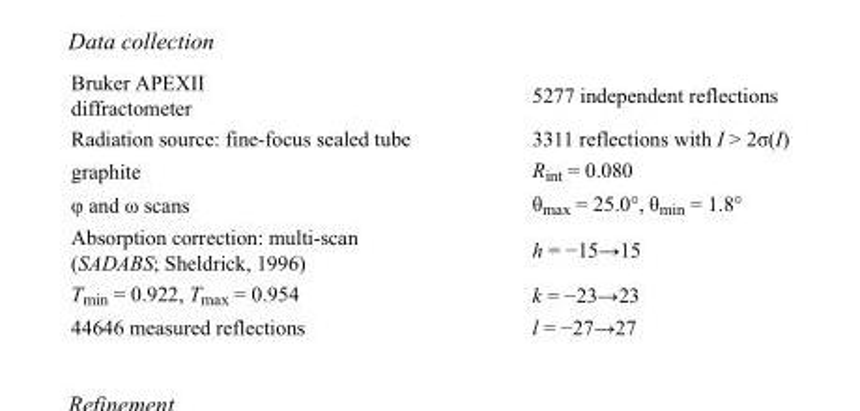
<table><tbody><tr><td>Bruker APEXII diffractometer</td><td>5277 independent reflections</td></tr><tr><td>Radiation source: fine-focus sealed tube</td><td>3311 reflections with I &gt; 2σ(I)</td></tr><tr><td>graphite</td><td>R<sub>int</sub> = 0.080</td></tr><tr><td>φ and ω scans</td><td>θ<sub>max</sub> = 25.0°, θ<sub>min</sub> = 1.8°</td></tr><tr><td>Absorption correction: multi-scan (SADABS; Sheldrick, 1996)</td><td>h = −15→15</td></tr><tr><td>T<sub>min</sub> = 0.922, T<sub>max</sub> = 0.954</td><td>k = −23→23</td></tr><tr><td>44646 measured reflections</td><td>l = −27→27</td></tr></tbody></table>